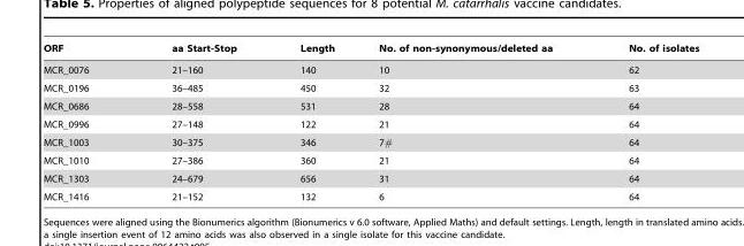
<table><thead><tr><td>ORF</td><td>aa Start-Stop</td><td>Length</td><td>No. of non-synonymous/deleted aa</td><td>No. of isolates</td></tr></thead><tbody><tr><td>MCR_0076</td><td>21–160</td><td>140</td><td>10</td><td>62</td></tr><tr><td>MCR_0196</td><td>36–485</td><td>450</td><td>32</td><td>63</td></tr><tr><td>MCR_0686</td><td>28–558</td><td>531</td><td>28</td><td>64</td></tr><tr><td>MCR_0996</td><td>27–148</td><td>122</td><td>21</td><td>64</td></tr><tr><td>MCR_1003</td><td>30–375</td><td>346</td><td>7#</td><td>64</td></tr><tr><td>MCR_1010</td><td>27–386</td><td>360</td><td>21</td><td>64</td></tr><tr><td>MCR_1303</td><td>24–679</td><td>656</td><td>31</td><td>64</td></tr><tr><td>MCR_1416</td><td>21–152</td><td>132</td><td>6</td><td>64</td></tr></tbody></table>